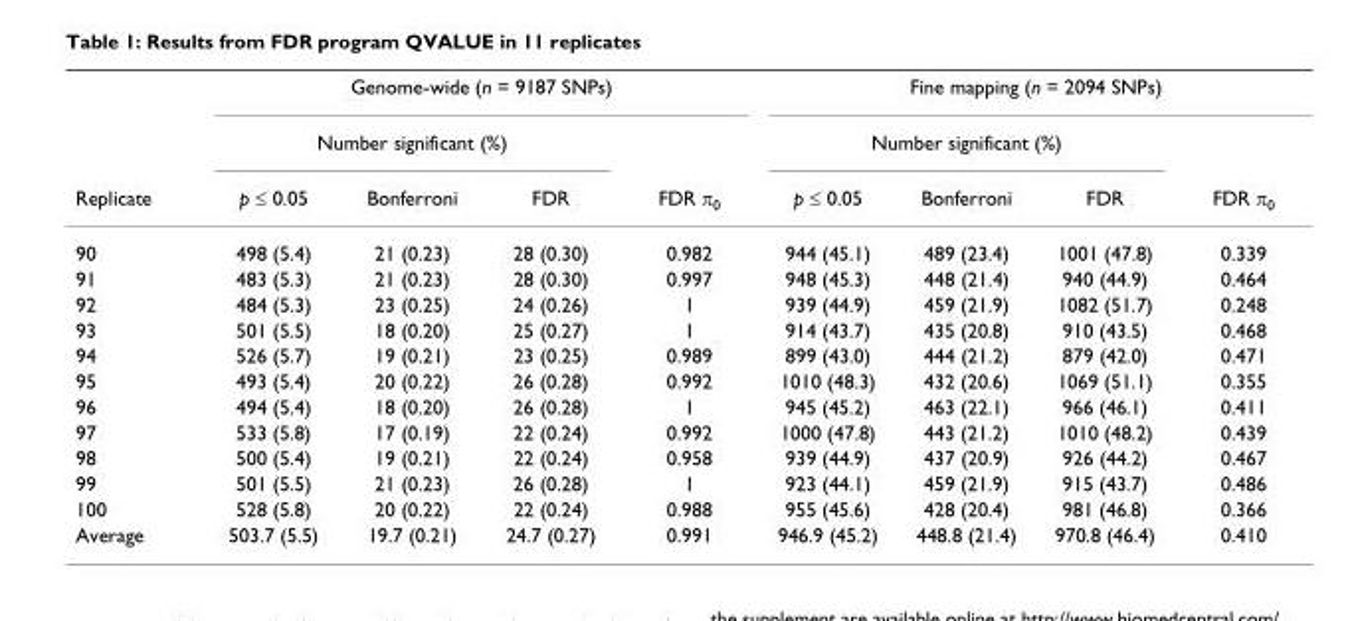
<table><thead><tr><td rowspan="3">Replicate</td><td colspan="4">Genome-wide (n = 9187 SNPs)</td><td colspan="4">Fine mapping (n = 2094 SNPs)</td></tr><tr><td colspan="3">Number significant (%)</td><td rowspan="2">FDR π<sub>0</sub></td><td colspan="3">Number significant (%)</td><td rowspan="2">FDR π<sub>0</sub></td></tr><tr><td>p ≤ 0.05</td><td>Bonferroni</td><td>FDR</td><td>p ≤ 0.05</td><td>Bonferroni</td><td>FDR</td></tr></thead><tbody><tr><td>90</td><td>498 (5.4)</td><td>21 (0.23)</td><td>28 (0.30)</td><td>0.982</td><td>944 (45.1)</td><td>489 (23.4)</td><td>1001 (47.8)</td><td>0.339</td></tr><tr><td>91</td><td>483 (5.3)</td><td>21 (0.23)</td><td>28 (0.30)</td><td>0.997</td><td>948 (45.3)</td><td>448 (21.4)</td><td>940 (44.9)</td><td>0.464</td></tr><tr><td>92</td><td>484 (5.3)</td><td>23 (0.25)</td><td>24 (0.26)</td><td>1</td><td>939 (44.9)</td><td>459 (21.9)</td><td>1082 (51.7)</td><td>0.248</td></tr><tr><td>93</td><td>501 (5.5)</td><td>18 (0.20)</td><td>25 (0.27)</td><td>1</td><td>914 (43.7)</td><td>435 (20.8)</td><td>910 (43.5)</td><td>0.468</td></tr><tr><td>94</td><td>526 (5.7)</td><td>19 (0.21)</td><td>23 (0.25)</td><td>0.989</td><td>899 (43.0)</td><td>444 (21.2)</td><td>879 (42.0)</td><td>0.471</td></tr><tr><td>95</td><td>493 (5.4)</td><td>20 (0.22)</td><td>26 (0.28)</td><td>0.992</td><td>1010 (48.3)</td><td>432 (20.6)</td><td>1069 (51.1)</td><td>0.355</td></tr><tr><td>96</td><td>494 (5.4)</td><td>18 (0.20)</td><td>26 (0.28)</td><td>1</td><td>945 (45.2)</td><td>463 (22.1)</td><td>966 (46.1)</td><td>0.411</td></tr><tr><td>97</td><td>533 (5.8)</td><td>17 (0.19)</td><td>22 (0.24)</td><td>0.992</td><td>1000 (47.8)</td><td>443 (21.2)</td><td>1010 (48.2)</td><td>0.439</td></tr><tr><td>98</td><td>500 (5.4)</td><td>19 (0.21)</td><td>22 (0.24)</td><td>0.958</td><td>939 (44.9)</td><td>437 (20.9)</td><td>926 (44.2)</td><td>0.467</td></tr><tr><td>99</td><td>501 (5.5)</td><td>21 (0.23)</td><td>26 (0.28)</td><td>1</td><td>923 (44.1)</td><td>459 (21.9)</td><td>915 (43.7)</td><td>0.486</td></tr><tr><td>100</td><td>528 (5.8)</td><td>20 (0.22)</td><td>22 (0.24)</td><td>0.988</td><td>955 (45.6)</td><td>428 (20.4)</td><td>981 (46.8)</td><td>0.366</td></tr><tr><td>Average</td><td>503.7 (5.5)</td><td>19.7 (0.21)</td><td>24.7 (0.27)</td><td>0.991</td><td>946.9 (45.2)</td><td>448.8 (21.4)</td><td>970.8 (46.4)</td><td>0.410</td></tr></tbody></table>